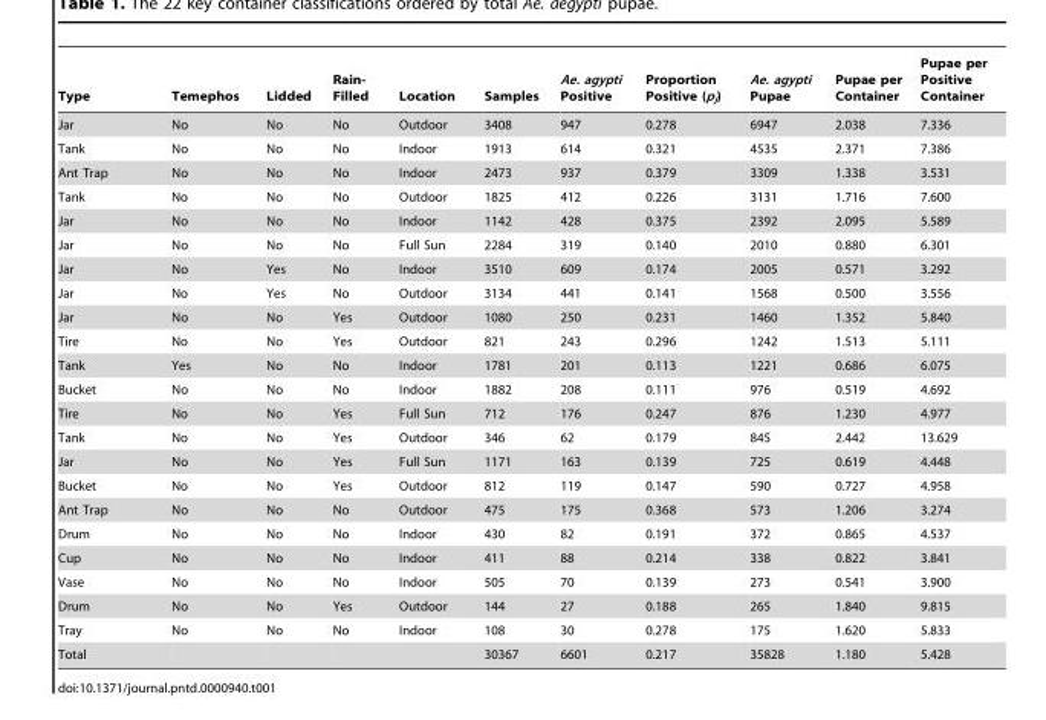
<table><thead><tr><td>Type</td><td>Temephos</td><td>Lidded</td><td>Rain- Filled</td><td>Location</td><td>Samples</td><td>Ae. agypti Positive</td><td>Proportion Positive (p<sub>j</sub>)</td><td>Ae. agypti Pupae</td><td>Pupae per Container</td><td>Pupae per Positive Container</td></tr></thead><tbody><tr><td>Jar</td><td>No</td><td>No</td><td>No</td><td>Outdoor</td><td>3408</td><td>947</td><td>0.278</td><td>6947</td><td>2.038</td><td>7.336</td></tr><tr><td>Tank</td><td>No</td><td>No</td><td>No</td><td>Indoor</td><td>1913</td><td>614</td><td>0.321</td><td>4535</td><td>2.371</td><td>7.386</td></tr><tr><td>Ant Trap</td><td>No</td><td>No</td><td>No</td><td>Indoor</td><td>2473</td><td>937</td><td>0.379</td><td>3309</td><td>1.338</td><td>3.531</td></tr><tr><td>Tank</td><td>No</td><td>No</td><td>No</td><td>Outdoor</td><td>1825</td><td>412</td><td>0.226</td><td>3131</td><td>1.716</td><td>7.600</td></tr><tr><td>Jar</td><td>No</td><td>No</td><td>No</td><td>Indoor</td><td>1142</td><td>428</td><td>0.375</td><td>2392</td><td>2.095</td><td>5.589</td></tr><tr><td>Jar</td><td>No</td><td>No</td><td>No</td><td>Full Sun</td><td>2284</td><td>319</td><td>0.140</td><td>2010</td><td>0.880</td><td>6.301</td></tr><tr><td>Jar</td><td>No</td><td>Yes</td><td>No</td><td>Indoor</td><td>3510</td><td>609</td><td>0.174</td><td>2005</td><td>0.571</td><td>3.292</td></tr><tr><td>Jar</td><td>No</td><td>Yes</td><td>No</td><td>Outdoor</td><td>3134</td><td>441</td><td>0.141</td><td>1568</td><td>0.500</td><td>3.556</td></tr><tr><td>Jar</td><td>No</td><td>No</td><td>Yes</td><td>Outdoor</td><td>1080</td><td>250</td><td>0.231</td><td>1460</td><td>1.352</td><td>5.840</td></tr><tr><td>Tire</td><td>No</td><td>No</td><td>Yes</td><td>Outdoor</td><td>821</td><td>243</td><td>0.296</td><td>1242</td><td>1.513</td><td>5.111</td></tr><tr><td>Tank</td><td>Yes</td><td>No</td><td>No</td><td>Indoor</td><td>1781</td><td>201</td><td>0.113</td><td>1221</td><td>0.686</td><td>6.075</td></tr><tr><td>Bucket</td><td>No</td><td>No</td><td>No</td><td>Indoor</td><td>1882</td><td>208</td><td>0.111</td><td>976</td><td>0.519</td><td>4.692</td></tr><tr><td>Tire</td><td>No</td><td>No</td><td>Yes</td><td>Full Sun</td><td>712</td><td>176</td><td>0.247</td><td>876</td><td>1.230</td><td>4.977</td></tr><tr><td>Tank</td><td>No</td><td>No</td><td>Yes</td><td>Outdoor</td><td>346</td><td>62</td><td>0.179</td><td>845</td><td>2.442</td><td>13.629</td></tr><tr><td>Jar</td><td>No</td><td>No</td><td>Yes</td><td>Full Sun</td><td>1171</td><td>163</td><td>0.139</td><td>725</td><td>0.619</td><td>4.448</td></tr><tr><td>Bucket</td><td>No</td><td>No</td><td>Yes</td><td>Outdoor</td><td>812</td><td>119</td><td>0.147</td><td>590</td><td>0.727</td><td>4.958</td></tr><tr><td>Ant Trap</td><td>No</td><td>No</td><td>No</td><td>Outdoor</td><td>475</td><td>175</td><td>0.368</td><td>573</td><td>1.206</td><td>3.274</td></tr><tr><td>Drum</td><td>No</td><td>No</td><td>No</td><td>Indoor</td><td>430</td><td>82</td><td>0.191</td><td>372</td><td>0.865</td><td>4.537</td></tr><tr><td>Cup</td><td>No</td><td>No</td><td>No</td><td>Indoor</td><td>411</td><td>88</td><td>0.214</td><td>338</td><td>0.822</td><td>3.841</td></tr><tr><td>Vase</td><td>No</td><td>No</td><td>No</td><td>Indoor</td><td>505</td><td>70</td><td>0.139</td><td>273</td><td>0.541</td><td>3.900</td></tr><tr><td>Drum</td><td>No</td><td>No</td><td>Yes</td><td>Outdoor</td><td>144</td><td>27</td><td>0.188</td><td>265</td><td>1.840</td><td>9.815</td></tr><tr><td>Tray</td><td>No</td><td>No</td><td>No</td><td>Indoor</td><td>108</td><td>30</td><td>0.278</td><td>175</td><td>1.620</td><td>5.833</td></tr><tr><td>Total</td><td></td><td></td><td></td><td></td><td>30367</td><td>6601</td><td>0.217</td><td>35828</td><td>1.180</td><td>5.428</td></tr></tbody></table>